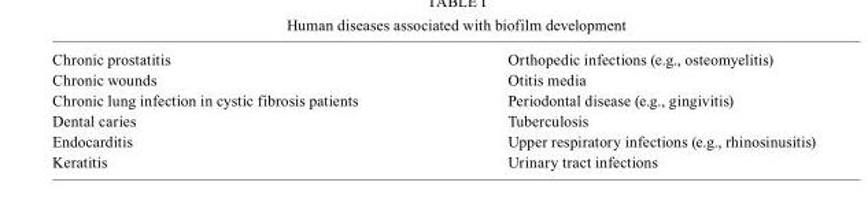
<table><tbody><tr><td>Chronic prostatitis</td><td>Orthopedic infections (e.g., osteomyelitis)</td></tr><tr><td>Chronic wounds</td><td>Otitis media</td></tr><tr><td>Chronic lung infection in cystic fibrosis patients</td><td>Periodontal disease (e.g., gingivitis)</td></tr><tr><td>Dental caries</td><td>Tuberculosis</td></tr><tr><td>Endocarditis</td><td>Upper respiratory infections (e.g., rhinosinusitis)</td></tr><tr><td>Keratitis</td><td>Urinary tract infections</td></tr></tbody></table>